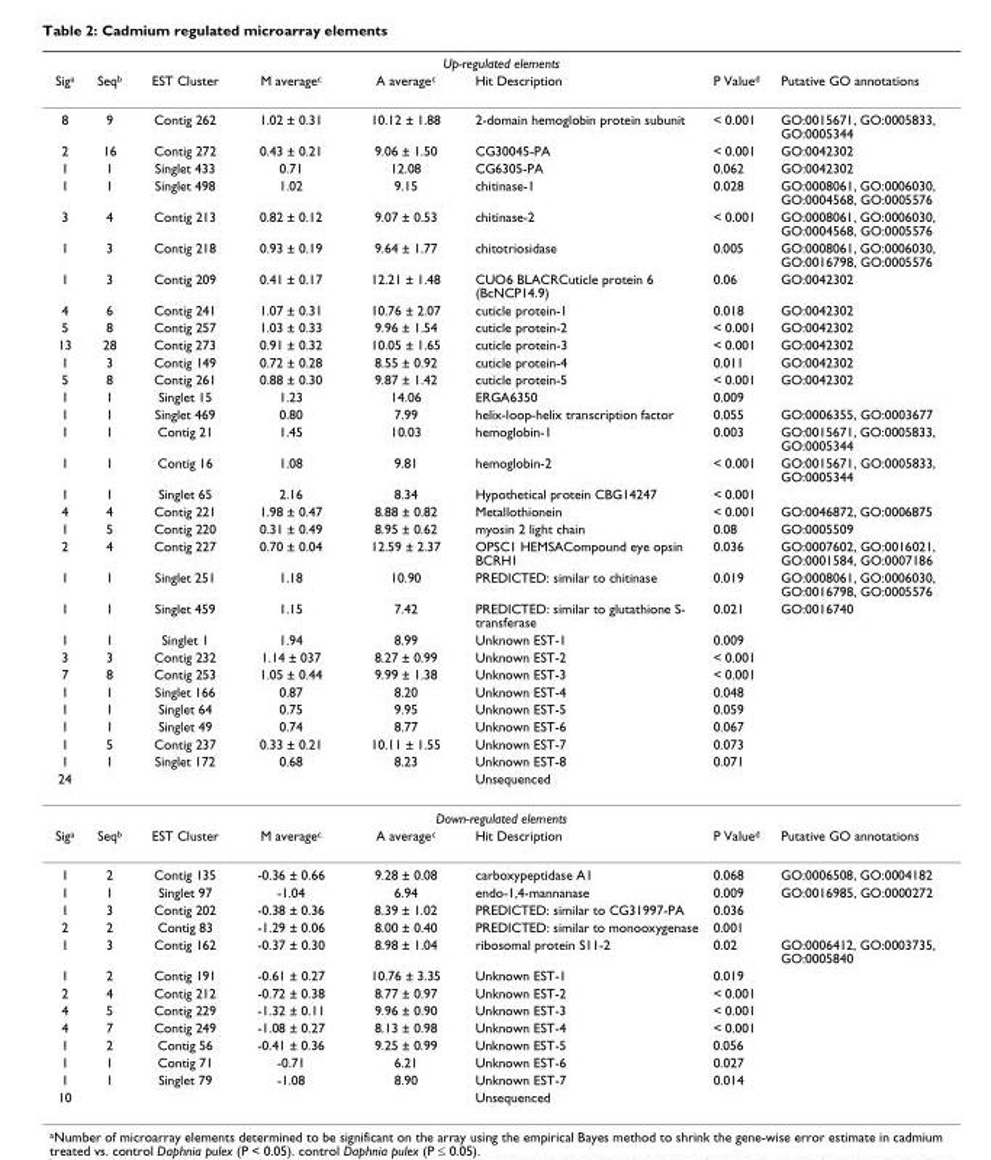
<table><thead><tr><td colspan="8">Up-regulated elements</td></tr><tr><td>Sig<sup>a</sup></td><td>Seq<sup>b</sup></td><td>EST Cluster</td><td>M average<sup>c</sup></td><td>A average<sup>c</sup></td><td>Hit Description</td><td>P Value<sup>d</sup></td><td>Putative GO annotations</td></tr></thead><tbody><tr><td>8</td><td>9</td><td>Contig 262</td><td>1.02 ± 0.31</td><td>10.12 ± 1.88</td><td>2-domain hemoglobin protein subunit</td><td>&lt; 0.001</td><td>GO:0015671, GO:0005833, GO:0005344</td></tr><tr><td>2</td><td>16</td><td>Contig 272</td><td>0.43 ± 0.21</td><td>9.06 ± 1.50</td><td>CG30045-PA</td><td>&lt; 0.001</td><td>GO:0042302</td></tr><tr><td>1</td><td>1</td><td>Singlet 433</td><td>0.71</td><td>12.08</td><td>CG6305-PA</td><td>0.062</td><td>GO:0042302</td></tr><tr><td>1</td><td>1</td><td>Singlet 498</td><td>1.02</td><td>9.15</td><td>chitinase-1</td><td>0.028</td><td>GO:0008061, GO:0006030, GO:0004568, GO:0005576</td></tr><tr><td>3</td><td>4</td><td>Contig 213</td><td>0.82 ± 0.12</td><td>9.07 ± 0.53</td><td>chitinase-2</td><td>&lt; 0.001</td><td>GO:0008061, GO:0006030, GO:0004568, GO:0005576</td></tr><tr><td>1</td><td>3</td><td>Contig 218</td><td>0.93 ± 0.19</td><td>9.64 ± 1.77</td><td>chitotriosidase</td><td>0.005</td><td>GO:0008061, GO:0006030, GO:0016798, GO:0005576</td></tr><tr><td>1</td><td>3</td><td>Contig 209</td><td>0.41 ± 0.17</td><td>12.21 ± 1.48</td><td>CUO6 BLACRCuticle protein 6 (BcNCP14.9)</td><td>0.06</td><td>GO:0042302</td></tr><tr><td>4</td><td>6</td><td>Contig 241</td><td>1.07 ± 0.31</td><td>10.76 ± 2.07</td><td>cuticle protein-1</td><td>0.018</td><td>GO:0042302</td></tr><tr><td>5</td><td>8</td><td>Contig 257</td><td>1.03 ± 0.33</td><td>9.96 ± 1.54</td><td>cuticle protein-2</td><td>&lt; 0.001</td><td>GO:0042302</td></tr><tr><td>13</td><td>28</td><td>Contig 273</td><td>0.91 ± 0.32</td><td>10.05 ± 1.65</td><td>cuticle protein-3</td><td>&lt; 0.001</td><td>GO:0042302</td></tr><tr><td>1</td><td>3</td><td>Contig 149</td><td>0.72 ± 0.28</td><td>8.55 ± 0.92</td><td>cuticle protein-4</td><td>0.011</td><td>GO:0042302</td></tr><tr><td>5</td><td>8</td><td>Contig 261</td><td>0.88 ± 0.30</td><td>9.87 ± 1.42</td><td>cuticle protein-5</td><td>&lt; 0.001</td><td>GO:0042302</td></tr><tr><td>1</td><td>1</td><td>Singlet 15</td><td>1.23</td><td>14.06</td><td>ERGA6350</td><td>0.009</td><td></td></tr><tr><td>1</td><td>1</td><td>Singlet 469</td><td>0.80</td><td>7.99</td><td>helix-loop-helix transcription factor</td><td>0.055</td><td>GO:0006355, GO:0003677</td></tr><tr><td>1</td><td>1</td><td>Contig 21</td><td>1.45</td><td>10.03</td><td>hemoglobin-1</td><td>0.003</td><td>GO:0015671, GO:0005833, GO:0005344</td></tr><tr><td>1</td><td>1</td><td>Contig 16</td><td>1.08</td><td>9.81</td><td>hemoglobin-2</td><td>&lt; 0.001</td><td>GO:0015671, GO:0005833, GO:0005344</td></tr><tr><td>1</td><td>1</td><td>Singlet 65</td><td>2.16</td><td>8.34</td><td>Hypothetical protein CBG14247</td><td>&lt; 0.001</td><td></td></tr><tr><td>4</td><td>4</td><td>Contig 221</td><td>1.98 ± 0.47</td><td>8.88 ± 0.82</td><td>Metallothionein</td><td>&lt; 0.001</td><td>GO:0046872, GO:0006875</td></tr><tr><td>1</td><td>5</td><td>Contig 220</td><td>0.31 ± 0.49</td><td>8.95 ± 0.62</td><td>myosin 2 light chain</td><td>0.08</td><td>GO:0005509</td></tr><tr><td>2</td><td>4</td><td>Contig 227</td><td>0.70 ± 0.04</td><td>12.59 ± 2.37</td><td>OPSC1 HEMSACompound eye opsin BCRH1</td><td>0.036</td><td>GO:0007602, GO:0016021, GO:0001584, GO:0007186</td></tr><tr><td>1</td><td>1</td><td>Singlet 251</td><td>1.18</td><td>10.90</td><td>PREDICTED: similar to chitinase</td><td>0.019</td><td>GO:0008061, GO:0006030, GO:0016798, GO:0005576</td></tr><tr><td>1</td><td>1</td><td>Singlet 459</td><td>1.15</td><td>7.42</td><td>PREDICTED: similar to glutathione S- transferase</td><td>0.021</td><td>GO:0016740</td></tr><tr><td>1</td><td>1</td><td>Singlet 1</td><td>1.94</td><td>8.99</td><td>Unknown EST-1</td><td>0.009</td><td></td></tr><tr><td>3</td><td>3</td><td>Contig 232</td><td>1.14 ± 037</td><td>8.27 ± 0.99</td><td>Unknown EST-2</td><td>&lt; 0.001</td><td></td></tr><tr><td>7</td><td>8</td><td>Contig 253</td><td>1.05 ± 0.44</td><td>9.99 ± 1.38</td><td>Unknown EST-3</td><td>&lt; 0.001</td><td></td></tr><tr><td>1</td><td>1</td><td>Singlet 166</td><td>0.87</td><td>8.20</td><td>Unknown EST-4</td><td>0.048</td><td></td></tr><tr><td>1</td><td>1</td><td>Singlet 64</td><td>0.75</td><td>9.95</td><td>Unknown EST-5</td><td>0.059</td><td></td></tr><tr><td>1</td><td>1</td><td>Singlet 49</td><td>0.74</td><td>8.77</td><td>Unknown EST-6</td><td>0.067</td><td></td></tr><tr><td>1</td><td>5</td><td>Contig 237</td><td>0.33 ± 0.21</td><td>10.11 ± 1.55</td><td>Unknown EST-7</td><td>0.073</td><td></td></tr><tr><td>1</td><td>1</td><td>Singlet 172</td><td>0.68</td><td>8.23</td><td>Unknown EST-8</td><td>0.071</td><td></td></tr><tr><td>24</td><td></td><td></td><td></td><td></td><td>Unsequenced</td><td></td><td></td></tr><tr><td colspan="8">Down-regulated elements</td></tr><tr><td>Sig<sup>a</sup></td><td>Seq<sup>b</sup></td><td>EST Cluster</td><td>M average<sup>c</sup></td><td>A average<sup>c</sup></td><td>Hit Description</td><td>P Value<sup>d</sup></td><td>Putative GO annotations</td></tr><tr><td>1</td><td>2</td><td>Contig 135</td><td>-0.36 ± 0.66</td><td>9.28 ± 0.08</td><td>carboxypeptidase A1</td><td>0.068</td><td>GO:0006508, GO:0004182</td></tr><tr><td>1</td><td>1</td><td>Singlet 97</td><td>-1.04</td><td>6.94</td><td>endo-1,4-mannanase</td><td>0.009</td><td>GO:0016985, GO:0000272</td></tr><tr><td>1</td><td>3</td><td>Contig 202</td><td>-0.38 ± 0.36</td><td>8.39 ± 1.02</td><td>PREDICTED: similar to CG31997-PA</td><td>0.036</td><td></td></tr><tr><td>2</td><td>2</td><td>Contig 83</td><td>-1.29 ± 0.06</td><td>8.00 ± 0.40</td><td>PREDICTED: similar to monooxygenase</td><td>0.001</td><td></td></tr><tr><td>1</td><td>3</td><td>Contig 162</td><td>-0.37 ± 0.30</td><td>8.98 ± 1.04</td><td>ribosomal protein S11-2</td><td>0.02</td><td>GO:0006412, GO:0003735, GO:0005840</td></tr><tr><td>1</td><td>2</td><td>Contig 191</td><td>-0.61 ± 0.27</td><td>10.76 ± 3.35</td><td>Unknown EST-1</td><td>0.019</td><td></td></tr><tr><td>2</td><td>4</td><td>Contig 212</td><td>-0.72 ± 0.38</td><td>8.77 ± 0.97</td><td>Unknown EST-2</td><td>&lt; 0.001</td><td></td></tr><tr><td>4</td><td>5</td><td>Contig 229</td><td>-1.32 ± 0.11</td><td>9.96 ± 0.90</td><td>Unknown EST-3</td><td>&lt; 0.001</td><td></td></tr><tr><td>4</td><td>7</td><td>Contig 249</td><td>-1.08 ± 0.27</td><td>8.13 ± 0.98</td><td>Unknown EST-4</td><td>&lt; 0.001</td><td></td></tr><tr><td>1</td><td>2</td><td>Contig 56</td><td>-0.41 ± 0.36</td><td>9.25 ± 0.99</td><td>Unknown EST-5</td><td>0.056</td><td></td></tr><tr><td>1</td><td>1</td><td>Contig 71</td><td>-0.71</td><td>6.21</td><td>Unknown EST-6</td><td>0.027</td><td></td></tr><tr><td>1</td><td>1</td><td>Singlet 79</td><td>-1.08</td><td>8.90</td><td>Unknown EST-7</td><td>0.014</td><td></td></tr><tr><td>10</td><td></td><td></td><td></td><td></td><td>Unsequenced</td><td></td><td></td></tr></tbody></table>